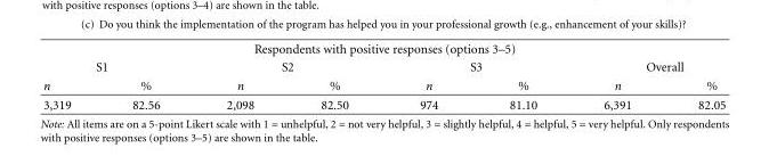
<table><thead><tr><td colspan="8">Respondents with positive responses (options 3–5)</td></tr><tr><td colspan="2">S1</td><td colspan="2">S2</td><td colspan="2">S3</td><td colspan="2">Overall</td></tr><tr><td>n</td><td>%</td><td>n</td><td>%</td><td>n</td><td>%</td><td>n</td><td>%</td></tr></thead><tbody><tr><td>3,319</td><td>82.56</td><td>2,098</td><td>82.50</td><td>974</td><td>81.10</td><td>6,391</td><td>82.05</td></tr></tbody></table>